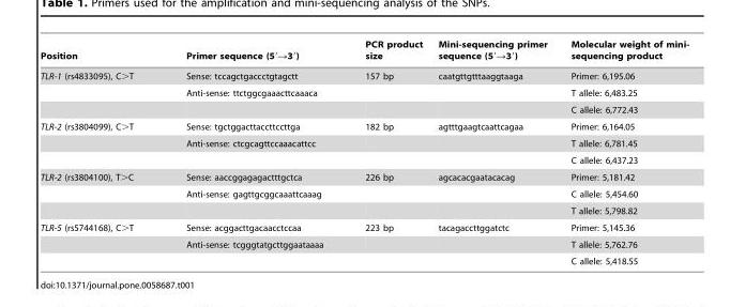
<table><thead><tr><td>Position</td><td>Primer sequence (5′→3′)</td><td>PCR product size</td><td>Mini-sequencing primer sequence (5′→3′)</td><td>Molecular weight of mini- sequencing product</td></tr></thead><tbody><tr><td rowspan="3">TLR-1 (rs4833095), C&gt;T</td><td>Sense: tccagctgaccctgtagctt</td><td>157 bp</td><td>caatgttgtttaaggtaaga</td><td>Primer: 6,195.06</td></tr><tr><td>Anti-sense: ttctggcgaaacttcaaaca</td><td></td><td></td><td>T allele: 6,483.25</td></tr><tr><td></td><td></td><td></td><td>C allele: 6,772.43</td></tr><tr><td rowspan="3">TLR-2 (rs3804099), C&gt;T</td><td>Sense: tgctggacttaccttccttga</td><td>182 bp</td><td>agtttgaagtcaattcagaa</td><td>Primer: 6,164.05</td></tr><tr><td>Anti-sense: ctcgcagttccaaacattcc</td><td></td><td></td><td>T allele: 6,781.45</td></tr><tr><td></td><td></td><td></td><td>C allele: 6,437.23</td></tr><tr><td rowspan="3">TLR-2 (rs3804100), T&gt;C</td><td>Sense: aaccggagagactttgctca</td><td>226 bp</td><td>agcacacgaatacacag</td><td>Primer: 5,181.42</td></tr><tr><td>Anti-sense: gagttgcggcaaattcaaag</td><td></td><td></td><td>C allele: 5,454.60</td></tr><tr><td></td><td></td><td></td><td>T allele: 5,798.82</td></tr><tr><td rowspan="3">TLR-5 (rs5744168), C&gt;T</td><td>Sense: acggacttgacaacctccaa</td><td>223 bp</td><td>tacagaccttggatctc</td><td>Primer: 5,145.36</td></tr><tr><td>Anti-sense: tcgggtatgcttggaataaaa</td><td></td><td></td><td>T allele: 5,762.76</td></tr><tr><td></td><td></td><td></td><td>C allele: 5,418.55</td></tr></tbody></table>